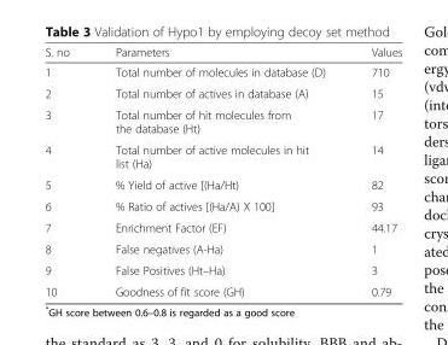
<table><thead><tr><td>S. no</td><td>Parameters</td><td>Values</td></tr></thead><tbody><tr><td>1</td><td>Total number of molecules in database (D)</td><td>710</td></tr><tr><td>2</td><td>Total number of actives in database (A)</td><td>15</td></tr><tr><td>3</td><td>Total number of hit molecules from the database (Ht)</td><td>17</td></tr><tr><td>4</td><td>Total number of active molecules in hit list (Ha)</td><td>14</td></tr><tr><td>5</td><td>% Yield of active [(Ha/Ht)</td><td>82</td></tr><tr><td>6</td><td>% Ratio of actives [(Ha/A) X 100]</td><td>93</td></tr><tr><td>7</td><td>Enrichment Factor (EF)</td><td>44.17</td></tr><tr><td>8</td><td>False negatives (A-Ha)</td><td>1</td></tr><tr><td>9</td><td>False Positives (Ht–Ha)</td><td>3</td></tr><tr><td>10</td><td>Goodness of fit score (GH)</td><td>0.79</td></tr></tbody></table>